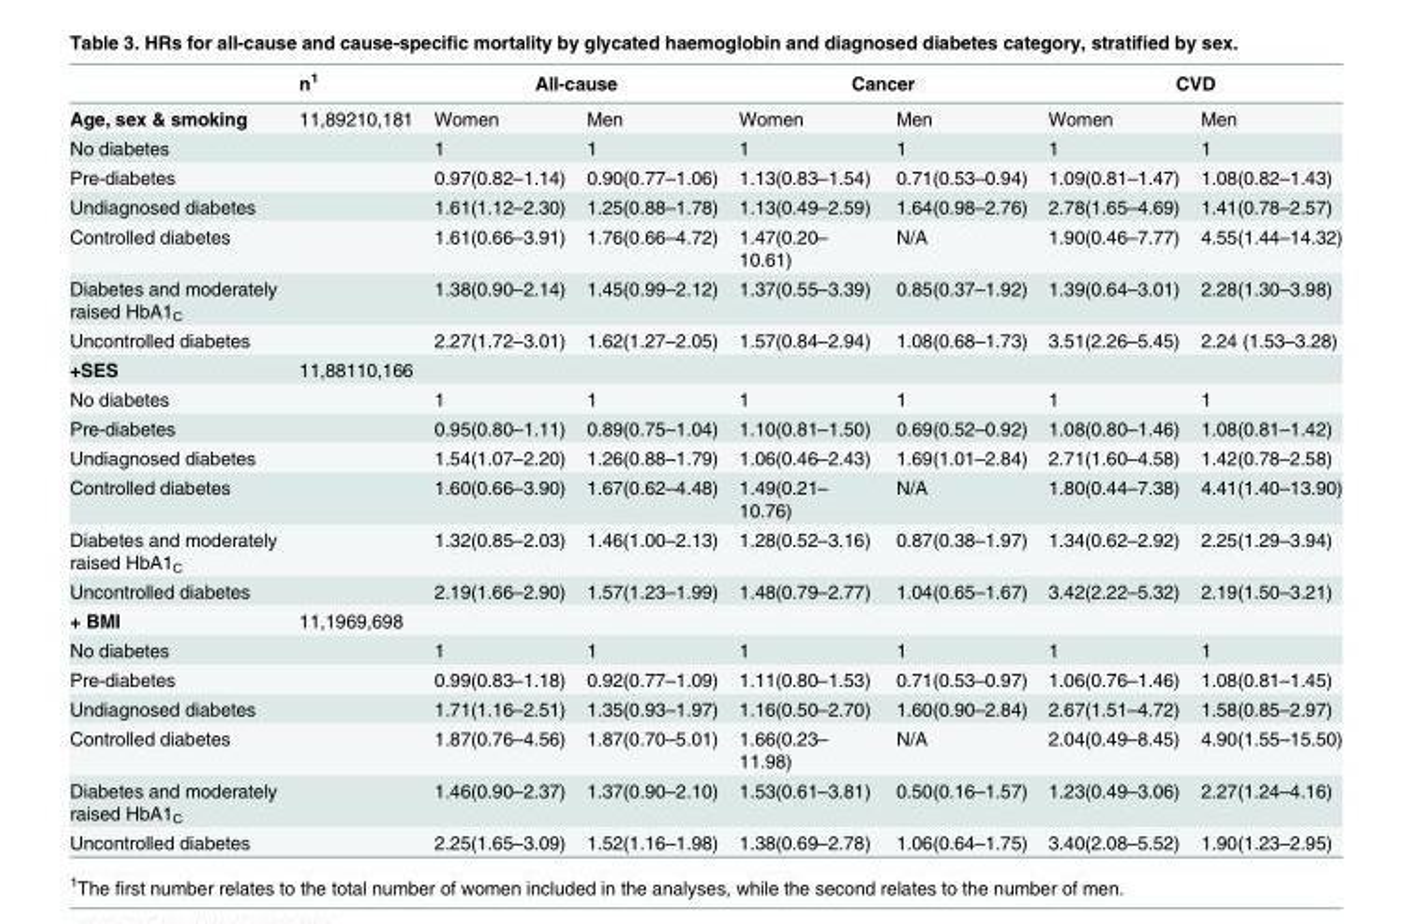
<table><thead><tr><td rowspan="2">Age, sex &amp; smoking</td><td rowspan="2">n<sup>1</sup> 11,89210,181</td><td colspan="2">All-cause</td><td colspan="2">Cancer</td><td colspan="2">CVD</td></tr><tr><td>Women</td><td>Men</td><td>Women</td><td>Men</td><td>Women</td><td>Men</td></tr></thead><tbody><tr><td>No diabetes</td><td></td><td>1</td><td>1</td><td>1</td><td>1</td><td>1</td><td>1</td></tr><tr><td>Pre-diabetes</td><td></td><td>0.97(0.82–1.14)</td><td>0.90(0.77–1.06)</td><td>1.13(0.83–1.54)</td><td>0.71(0.53–0.94)</td><td>1.09(0.81–1.47)</td><td>1.08(0.82–1.43)</td></tr><tr><td>Undiagnosed diabetes</td><td></td><td>1.61(1.12–2.30)</td><td>1.25(0.88–1.78)</td><td>1.13(0.49–2.59)</td><td>1.64(0.98–2.76)</td><td>2.78(1.65–4.69)</td><td>1.41(0.78–2.57)</td></tr><tr><td>Controlled diabetes</td><td></td><td>1.61(0.66–3.91)</td><td>1.76(0.66–4.72)</td><td>1.47(0.20– 10.61)</td><td>N/A</td><td>1.90(0.46–7.77)</td><td>4.55(1.44–14.32)</td></tr><tr><td>Diabetes and moderately raised HbA1<sub>C</sub></td><td></td><td>1.38(0.90–2.14)</td><td>1.45(0.99–2.12)</td><td>1.37(0.55–3.39)</td><td>0.85(0.37–1.92)</td><td>1.39(0.64–3.01)</td><td>2.28(1.30–3.98)</td></tr><tr><td>Uncontrolled diabetes</td><td></td><td>2.27(1.72–3.01)</td><td>1.62(1.27–2.05)</td><td>1.57(0.84–2.94)</td><td>1.08(0.68–1.73)</td><td>3.51(2.26–5.45)</td><td>2.24 (1.53–3.28)</td></tr><tr><td>+SES</td><td>11,88110,166</td><td></td><td></td><td></td><td></td><td></td><td></td></tr><tr><td>No diabetes</td><td></td><td>1</td><td>1</td><td>1</td><td>1</td><td>1</td><td>1</td></tr><tr><td>Pre-diabetes</td><td></td><td>0.95(0.80–1.11)</td><td>0.89(0.75–1.04)</td><td>1.10(0.81–1.50)</td><td>0.69(0.52–0.92)</td><td>1.08(0.80–1.46)</td><td>1.08(0.81–1.42)</td></tr><tr><td>Undiagnosed diabetes</td><td></td><td>1.54(1.07–2.20)</td><td>1.26(0.88–1.79)</td><td>1.06(0.46–2.43)</td><td>1.69(1.01–2.84)</td><td>2.71(1.60–4.58)</td><td>1.42(0.78–2.58)</td></tr><tr><td>Controlled diabetes</td><td></td><td>1.60(0.66–3.90)</td><td>1.67(0.62–4.48)</td><td>1.49(0.21– 10.76)</td><td>N/A</td><td>1.80(0.44–7.38)</td><td>4.41(1.40–13.90)</td></tr><tr><td>Diabetes and moderately raised HbA1<sub>C</sub></td><td></td><td>1.32(0.85–2.03)</td><td>1.46(1.00–2.13)</td><td>1.28(0.52–3.16)</td><td>0.87(0.38–1.97)</td><td>1.34(0.62–2.92)</td><td>2.25(1.29–3.94)</td></tr><tr><td>Uncontrolled diabetes</td><td></td><td>2.19(1.66–2.90)</td><td>1.57(1.23–1.99)</td><td>1.48(0.79–2.77)</td><td>1.04(0.65–1.67)</td><td>3.42(2.22–5.32)</td><td>2.19(1.50–3.21)</td></tr><tr><td>+ BMI</td><td>11,1969,698</td><td></td><td></td><td></td><td></td><td></td><td></td></tr><tr><td>No diabetes</td><td></td><td>1</td><td>1</td><td>1</td><td>1</td><td>1</td><td>1</td></tr><tr><td>Pre-diabetes</td><td></td><td>0.99(0.83–1.18)</td><td>0.92(0.77–1.09)</td><td>1.11(0.80–1.53)</td><td>0.71(0.53–0.97)</td><td>1.06(0.76–1.46)</td><td>1.08(0.81–1.45)</td></tr><tr><td>Undiagnosed diabetes</td><td></td><td>1.71(1.16–2.51)</td><td>1.35(0.93–1.97)</td><td>1.16(0.50–2.70)</td><td>1.60(0.90–2.84)</td><td>2.67(1.51–4.72)</td><td>1.58(0.85–2.97)</td></tr><tr><td>Controlled diabetes</td><td></td><td>1.87(0.76–4.56)</td><td>1.87(0.70–5.01)</td><td>1.66(0.23– 11.98)</td><td>N/A</td><td>2.04(0.49–8.45)</td><td>4.90(1.55–15.50)</td></tr><tr><td>Diabetes and moderately raised HbA1<sub>C</sub></td><td></td><td>1.46(0.90–2.37)</td><td>1.37(0.90–2.10)</td><td>1.53(0.61–3.81)</td><td>0.50(0.16–1.57)</td><td>1.23(0.49–3.06)</td><td>2.27(1.24–4.16)</td></tr><tr><td>Uncontrolled diabetes</td><td></td><td>2.25(1.65–3.09)</td><td>1.52(1.16–1.98)</td><td>1.38(0.69–2.78)</td><td>1.06(0.64–1.75)</td><td>3.40(2.08–5.52)</td><td>1.90(1.23–2.95)</td></tr></tbody></table>